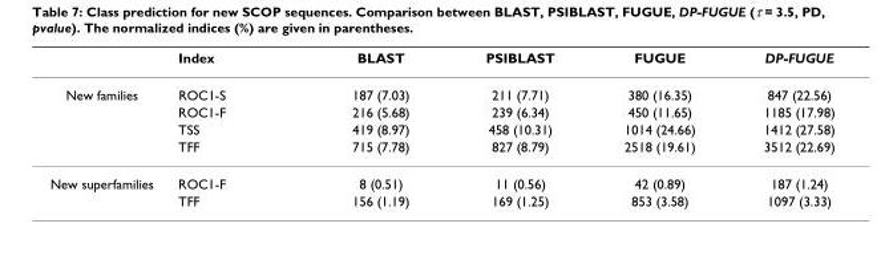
<table><thead><tr><td></td><td>Index</td><td>BLAST</td><td>PSIBLAST</td><td>FUGUE</td><td>DP-FUGUE</td></tr></thead><tbody><tr><td rowspan="4">New families</td><td>ROC1-S</td><td>187 (7.03)</td><td>211 (7.71)</td><td>380 (16.35)</td><td>847 (22.56)</td></tr><tr><td>ROC1-F</td><td>216 (5.68)</td><td>239 (6.34)</td><td>450 (11.65)</td><td>1185 (17.98)</td></tr><tr><td>TSS</td><td>419 (8.97)</td><td>458 (10.31)</td><td>1014 (24.66)</td><td>1412 (27.58)</td></tr><tr><td>TFF</td><td>715 (7.78)</td><td>827 (8.79)</td><td>2518 (19.61)</td><td>3512 (22.69)</td></tr><tr><td rowspan="2">New superfamilies</td><td>ROC1-F</td><td>8 (0.51)</td><td>11 (0.56)</td><td>42 (0.89)</td><td>187 (1.24)</td></tr><tr><td>TFF</td><td>156 (1.19)</td><td>169 (1.25)</td><td>853 (3.58)</td><td>1097 (3.33)</td></tr></tbody></table>